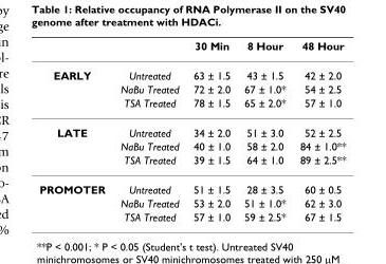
<table><thead><tr><td></td><td></td><td>30 Min</td><td>8 Hour</td><td>48 Hour</td></tr></thead><tbody><tr><td rowspan="3">EARLY</td><td>Untreated</td><td>63 ± 1.5</td><td>43 ± 1.5</td><td>42 ± 2.0</td></tr><tr><td>NaBu Treated</td><td>72 ± 2.0</td><td>67 ± 1.0*</td><td>54 ± 2.5</td></tr><tr><td>TSA Treated</td><td>78 ± 1.5</td><td>65 ± 2.0*</td><td>57 ± 1.0</td></tr><tr><td rowspan="3">LATE</td><td>Untreated</td><td>34 ± 2.0</td><td>51 ± 3.0</td><td>52 ± 2.5</td></tr><tr><td>NaBu Treated</td><td>40 ± 1.0</td><td>58 ± 2.0</td><td>84 ± 1.0**</td></tr><tr><td>TSA Treated</td><td>39 ± 1.5</td><td>64 ± 1.0</td><td>89 ± 2.5**</td></tr><tr><td rowspan="3">PROMOTER</td><td>Untreated</td><td>51 ± 1.5</td><td>28 ± 3.5</td><td>60 ± 0.5</td></tr><tr><td>NaBu Treated</td><td>53 ± 2.0</td><td>51 ± 1.0*</td><td>62 ± 3.0</td></tr><tr><td>TSA Treated</td><td>57 ± 1.0</td><td>59 ± 2.5*</td><td>67 ± 1.5</td></tr></tbody></table>